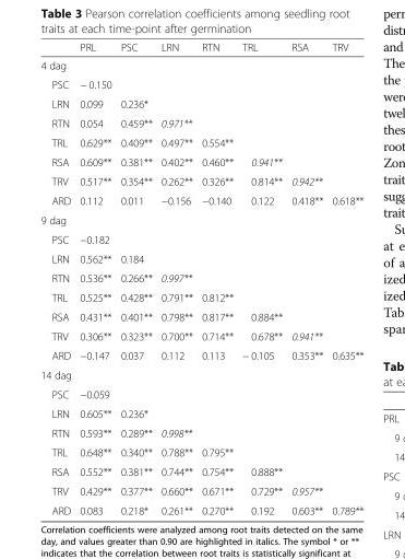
<table><thead><tr><td></td><td>PRL</td><td>PSC</td><td>LRN</td><td>RTN</td><td>TRL</td><td>RSA</td><td>TRV</td></tr></thead><tbody><tr><td colspan="8">4 dag</td></tr><tr><td>PSC</td><td>− 0.150</td><td></td><td></td><td></td><td></td><td></td><td></td></tr><tr><td>LRN</td><td>0.099</td><td>0.236*</td><td></td><td></td><td></td><td></td><td></td></tr><tr><td>RTN</td><td>0.054</td><td>0.459**</td><td>0.971**</td><td></td><td></td><td></td><td></td></tr><tr><td>TRL</td><td>0.629**</td><td>0.409**</td><td>0.497**</td><td>0.554**</td><td></td><td></td><td></td></tr><tr><td>RSA</td><td>0.609**</td><td>0.381**</td><td>0.402**</td><td>0.460**</td><td>0.941**</td><td></td><td></td></tr><tr><td>TRV</td><td>0.517**</td><td>0.354**</td><td>0.262**</td><td>0.326**</td><td>0.814**</td><td>0.942**</td><td></td></tr><tr><td>ARD</td><td>0.112</td><td>0.011</td><td>−0.156</td><td>−0.140</td><td>0.122</td><td>0.418**</td><td>0.618**</td></tr><tr><td colspan="8">9 dag</td></tr><tr><td>PSC</td><td>−0.182</td><td></td><td></td><td></td><td></td><td></td><td></td></tr><tr><td>LRN</td><td>0.562**</td><td>0.184</td><td></td><td></td><td></td><td></td><td></td></tr><tr><td>RTN</td><td>0.536**</td><td>0.266**</td><td>0.997**</td><td></td><td></td><td></td><td></td></tr><tr><td>TRL</td><td>0.525**</td><td>0.428**</td><td>0.791**</td><td>0.812**</td><td></td><td></td><td></td></tr><tr><td>RSA</td><td>0.431**</td><td>0.401**</td><td>0.798**</td><td>0.817**</td><td>0.884**</td><td></td><td></td></tr><tr><td>TRV</td><td>0.306**</td><td>0.323**</td><td>0.700**</td><td>0.714**</td><td>0.678**</td><td>0.941**</td><td></td></tr><tr><td>ARD</td><td>−0.147</td><td>0.037</td><td>0.112</td><td>0.113</td><td>− 0.105</td><td>0.353**</td><td>0.635**</td></tr><tr><td colspan="8">14 dag</td></tr><tr><td>PSC</td><td>−0.059</td><td></td><td></td><td></td><td></td><td></td><td></td></tr><tr><td>LRN</td><td>0.605**</td><td>0.236*</td><td></td><td></td><td></td><td></td><td></td></tr><tr><td>RTN</td><td>0.593**</td><td>0.289**</td><td>0.998**</td><td></td><td></td><td></td><td></td></tr><tr><td>TRL</td><td>0.648**</td><td>0.340**</td><td>0.788**</td><td>0.795**</td><td></td><td></td><td></td></tr><tr><td>RSA</td><td>0.552**</td><td>0.381**</td><td>0.744**</td><td>0.754**</td><td>0.888**</td><td></td><td></td></tr><tr><td>TRV</td><td>0.429**</td><td>0.377**</td><td>0.660**</td><td>0.671**</td><td>0.729**</td><td>0.957**</td><td></td></tr><tr><td>ARD</td><td>0.083</td><td>0.218*</td><td>0.261**</td><td>0.270**</td><td>0.192</td><td>0.603**</td><td>0.789**</td></tr></tbody></table>